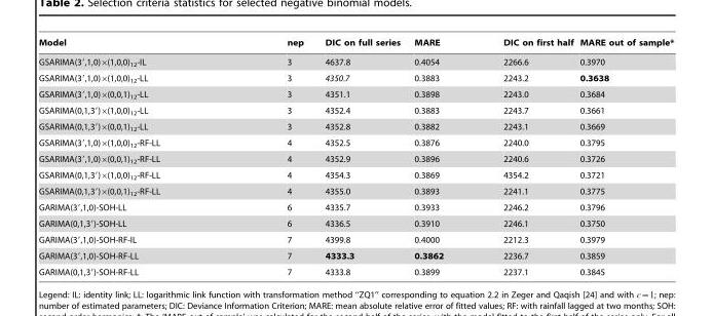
<table><thead><tr><td>Model</td><td>nep</td><td>DIC on full series</td><td>MARE</td><td>DIC on first half</td><td>MARE out of sample*</td></tr></thead><tbody><tr><td>GSARIMA(3′,1,0)×(1,0,0)<sub>12</sub>-IL</td><td>3</td><td>4637.8</td><td>0.4054</td><td>2266.6</td><td>0.3970</td></tr><tr><td>GSARIMA(3′,1,0)×(1,0,0)<sub>12</sub>-LL</td><td>3</td><td>4350.7</td><td>0.3883</td><td>2243.2</td><td>0.3638</td></tr><tr><td>GSARIMA(3′,1,0)×(0,0,1)<sub>12</sub>-LL</td><td>3</td><td>4351.1</td><td>0.3898</td><td>2243.0</td><td>0.3684</td></tr><tr><td>GSARIMA(0,1,3′)×(1,0,0)<sub>12</sub>-LL</td><td>3</td><td>4352.4</td><td>0.3883</td><td>2243.7</td><td>0.3661</td></tr><tr><td>GSARIMA(0,1,3′)×(0,0,1)<sub>12</sub>-LL</td><td>3</td><td>4352.8</td><td>0.3882</td><td>2243.1</td><td>0.3669</td></tr><tr><td>GSARIMA(3′,1,0)×(1,0,0)<sub>12</sub>-RF-LL</td><td>4</td><td>4352.5</td><td>0.3876</td><td>2240.0</td><td>0.3795</td></tr><tr><td>GSARIMA(3′,1,0)×(0,0,1)<sub>12</sub>-RF-LL</td><td>4</td><td>4352.9</td><td>0.3896</td><td>2240.6</td><td>0.3726</td></tr><tr><td>GSARIMA(0,1,3′)×(1,0,0)<sub>12</sub>-RF-LL</td><td>4</td><td>4354.3</td><td>0.3869</td><td>4354.2</td><td>0.3721</td></tr><tr><td>GSARIMA(0,1,3′)×(0,0,1)<sub>12</sub>-RF-LL</td><td>4</td><td>4355.0</td><td>0.3893</td><td>2241.1</td><td>0.3775</td></tr><tr><td>GARIMA(3′,1,0)-SOH-LL</td><td>6</td><td>4335.7</td><td>0.3933</td><td>2246.2</td><td>0.3796</td></tr><tr><td>GARIMA(0,1,3′)-SOH-LL</td><td>6</td><td>4336.5</td><td>0.3910</td><td>2246.1</td><td>0.3750</td></tr><tr><td>GARIMA(3′,1,0)-SOH-RF-IL</td><td>7</td><td>4399.8</td><td>0.4000</td><td>2212.3</td><td>0.3979</td></tr><tr><td>GARIMA(3′,1,0)-SOH-RF-LL</td><td>7</td><td>4333.3</td><td>0.3862</td><td>2236.7</td><td>0.3859</td></tr><tr><td>GARIMA(0,1,3′)-SOH-RF-LL</td><td>7</td><td>4333.8</td><td>0.3899</td><td>2237.1</td><td>0.3845</td></tr></tbody></table>